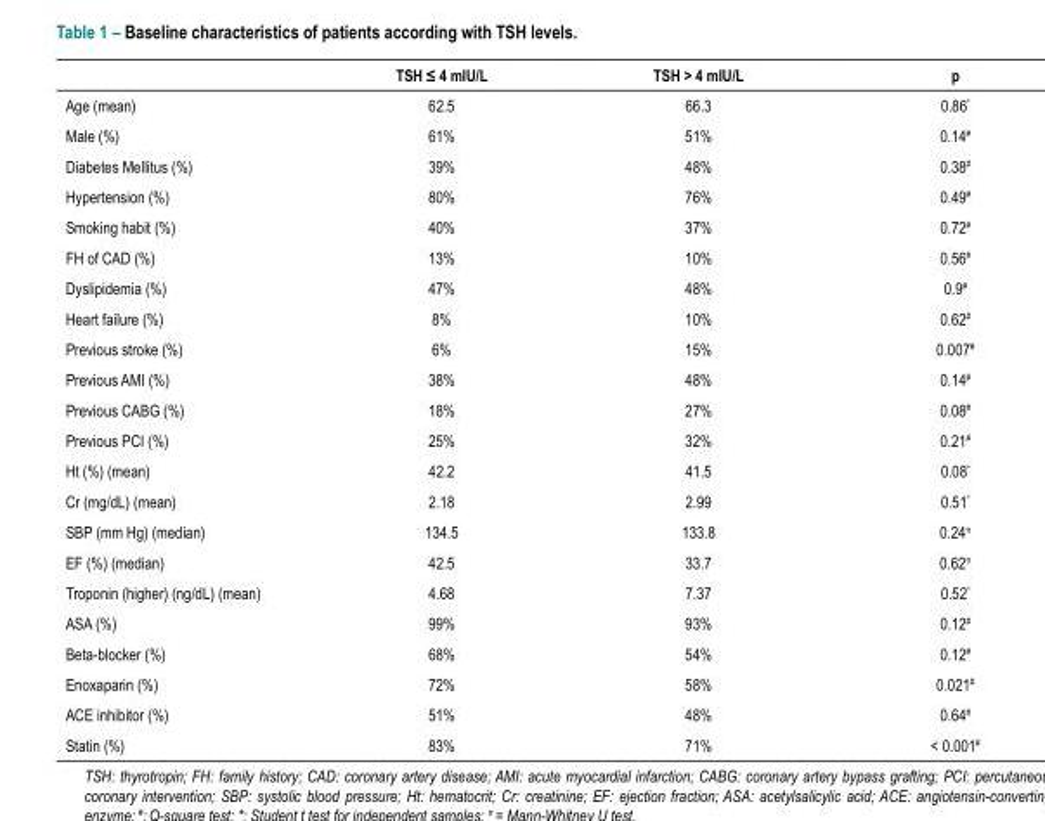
<table><thead><tr><td></td><td>TSH ≤ 4 mIU/L</td><td>TSH &gt; 4 mIU/L</td><td>p</td></tr></thead><tbody><tr><td>Age (mean)</td><td>62.5</td><td>66.3</td><td>0.86*</td></tr><tr><td>Male (%)</td><td>61%</td><td>51%</td><td>0.14<sup>#</sup></td></tr><tr><td>Diabetes Mellitus (%)</td><td>39%</td><td>48%</td><td>0.38<sup>#</sup></td></tr><tr><td>Hypertension (%)</td><td>80%</td><td>76%</td><td>0.49<sup>#</sup></td></tr><tr><td>Smoking habit (%)</td><td>40%</td><td>37%</td><td>0.72<sup>#</sup></td></tr><tr><td>FH of CAD (%)</td><td>13%</td><td>10%</td><td>0.56<sup>#</sup></td></tr><tr><td>Dyslipidemia (%)</td><td>47%</td><td>48%</td><td>0.9<sup>#</sup></td></tr><tr><td>Heart failure (%)</td><td>8%</td><td>10%</td><td>0.62<sup>#</sup></td></tr><tr><td>Previous stroke (%)</td><td>6%</td><td>15%</td><td>0.007<sup>#</sup></td></tr><tr><td>Previous AMI (%)</td><td>38%</td><td>48%</td><td>0.14<sup>#</sup></td></tr><tr><td>Previous CABG (%)</td><td>18%</td><td>27%</td><td>0.08<sup>#</sup></td></tr><tr><td>Previous PCI (%)</td><td>25%</td><td>32%</td><td>0.21<sup>#</sup></td></tr><tr><td>Ht (%) (mean)</td><td>42.2</td><td>41.5</td><td>0.08*</td></tr><tr><td>Cr (mg/dL) (mean)</td><td>2.18</td><td>2.99</td><td>0.51*</td></tr><tr><td>SBP (mm Hg) (median)</td><td>134.5</td><td>133.8</td><td>0.24<sup>π</sup></td></tr><tr><td>EF (%) (median)</td><td>42.5</td><td>33.7</td><td>0.62<sup>π</sup></td></tr><tr><td>Troponin (higher) (ng/dL) (mean)</td><td>4.68</td><td>7.37</td><td>0.52*</td></tr><tr><td>ASA (%)</td><td>99%</td><td>93%</td><td>0.12<sup>#</sup></td></tr><tr><td>Beta-blocker (%)</td><td>68%</td><td>54%</td><td>0.12<sup>#</sup></td></tr><tr><td>Enoxaparin (%)</td><td>72%</td><td>58%</td><td>0.021<sup>#</sup></td></tr><tr><td>ACE inhibitor (%)</td><td>51%</td><td>48%</td><td>0.64<sup>#</sup></td></tr><tr><td>Statin (%)</td><td>83%</td><td>71%</td><td>&lt; 0.001<sup>#</sup></td></tr></tbody></table>